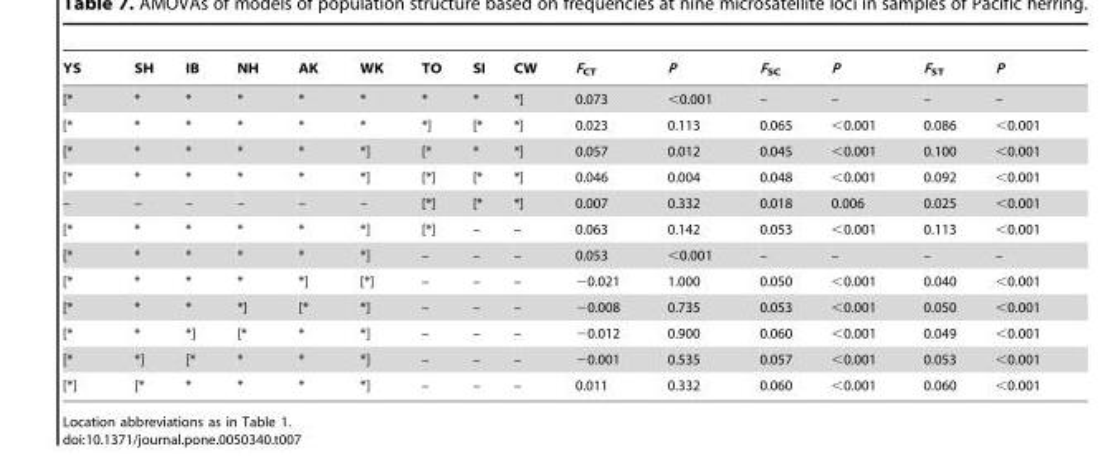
<table><thead><tr><td>YS</td><td>SH</td><td>IB</td><td>NH</td><td>AK</td><td>WK</td><td>TO</td><td>SI</td><td>CW</td><td>F<sub>CT</sub></td><td>P</td><td>F<sub>SC</sub></td><td>P</td><td>F<sub>ST</sub></td><td>P</td></tr></thead><tbody><tr><td>[*</td><td>*</td><td>*</td><td>*</td><td>*</td><td>*</td><td>*</td><td>*</td><td>*]</td><td>0.073</td><td>&lt;0.001</td><td>–</td><td>–</td><td>–</td><td>–</td></tr><tr><td>[*</td><td>*</td><td>*</td><td>*</td><td>*</td><td>*</td><td>*]</td><td>[*</td><td>*]</td><td>0.023</td><td>0.113</td><td>0.065</td><td>&lt;0.001</td><td>0.086</td><td>&lt;0.001</td></tr><tr><td>[*</td><td>*</td><td>*</td><td>*</td><td>*</td><td>*]</td><td>[*</td><td>*</td><td>*]</td><td>0.057</td><td>0.012</td><td>0.045</td><td>&lt;0.001</td><td>0.100</td><td>&lt;0.001</td></tr><tr><td>[*</td><td>*</td><td>*</td><td>*</td><td>*</td><td>*]</td><td>[*]</td><td>[*</td><td>*]</td><td>0.046</td><td>0.004</td><td>0.048</td><td>&lt;0.001</td><td>0.092</td><td>&lt;0.001</td></tr><tr><td>–</td><td>–</td><td>–</td><td>–</td><td>–</td><td>–</td><td>[*]</td><td>[*</td><td>*]</td><td>0.007</td><td>0.332</td><td>0.018</td><td>0.006</td><td>0.025</td><td>&lt;0.001</td></tr><tr><td>[*</td><td>*</td><td>*</td><td>*</td><td>*</td><td>*]</td><td>[*]</td><td>–</td><td>–</td><td>0.063</td><td>0.142</td><td>0.053</td><td>&lt;0.001</td><td>0.113</td><td>&lt;0.001</td></tr><tr><td>[*</td><td>*</td><td>*</td><td>*</td><td>*</td><td>*]</td><td>–</td><td>–</td><td>–</td><td>0.053</td><td>&lt;0.001</td><td>–</td><td>–</td><td>–</td><td>–</td></tr><tr><td>[*</td><td>*</td><td>*</td><td>*</td><td>*]</td><td>[*]</td><td>–</td><td>–</td><td>–</td><td>−0.021</td><td>1.000</td><td>0.050</td><td>&lt;0.001</td><td>0.040</td><td>&lt;0.001</td></tr><tr><td>[*</td><td>*</td><td>*</td><td>*]</td><td>[*</td><td>*]</td><td>–</td><td>–</td><td>–</td><td>−0.008</td><td>0.735</td><td>0.053</td><td>&lt;0.001</td><td>0.050</td><td>&lt;0.001</td></tr><tr><td>[*</td><td>*</td><td>*]</td><td>[*</td><td>*</td><td>*]</td><td>–</td><td>–</td><td>–</td><td>−0.012</td><td>0.900</td><td>0.060</td><td>&lt;0.001</td><td>0.049</td><td>&lt;0.001</td></tr><tr><td>[*</td><td>*]</td><td>[*</td><td>*</td><td>*</td><td>*]</td><td>–</td><td>–</td><td>–</td><td>−0.001</td><td>0.535</td><td>0.057</td><td>&lt;0.001</td><td>0.053</td><td>&lt;0.001</td></tr><tr><td>[*]</td><td>[*</td><td>*</td><td>*</td><td>*</td><td>*]</td><td>–</td><td>–</td><td>–</td><td>0.011</td><td>0.332</td><td>0.060</td><td>&lt;0.001</td><td>0.060</td><td>&lt;0.001</td></tr></tbody></table>